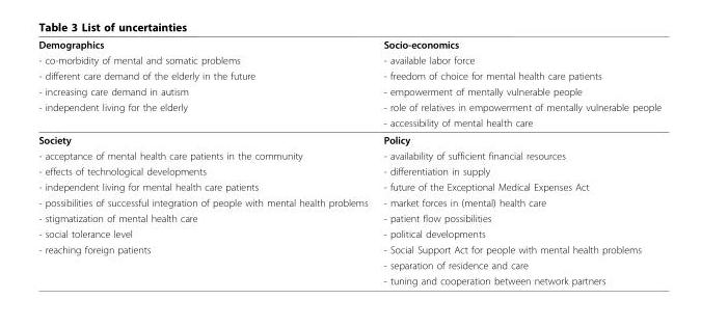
<table><thead><tr><td rowspan="6">Demographics - co-morbidity of mental and somatic problems - different care demand of the elderly in the future - increasing care demand in autism - independent living for the elderly</td><td rowspan="6">Socio-economics - available labor force - freedom of choice for mental health care patients - empowerment of mentally vulnerable people - role of relatives in empowerment of mentally vulnerable people - accessibility of mental health care</td></tr><tr></tr><tr></tr><tr></tr><tr></tr><tr></tr></thead><tbody><tr><td>Society</td><td>Policy</td></tr><tr><td>- acceptance of mental health care patients in the community</td><td>- availability of sufficient financial resources</td></tr><tr><td>- effects of technological developments</td><td>- differentiation in supply</td></tr><tr><td>- independent living for mental health care patients</td><td>- future of the Exceptional Medical Expenses Act</td></tr><tr><td>- possibilities of successful integration of people with mental health problems</td><td>- market forces in (mental) health care</td></tr><tr><td>- stigmatization of mental health care</td><td>- patient flow possibilities</td></tr><tr><td>- social tolerance level</td><td>- political developments</td></tr><tr><td rowspan="3">- reaching foreign patients</td><td>- Social Support Act for people with mental health problems</td></tr><tr><td>- separation of residence and care</td></tr><tr><td>- tuning and cooperation between network partners</td></tr></tbody></table>